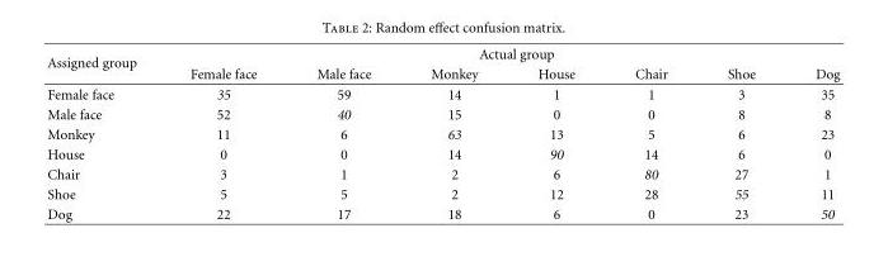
<table><thead><tr><td rowspan="2">Assigned group</td><td colspan="7">Actual group</td></tr><tr><td>Female face</td><td>Male face</td><td>Monkey</td><td>House</td><td>Chair</td><td>Shoe</td><td>Dog</td></tr></thead><tbody><tr><td>Female face</td><td>35</td><td>59</td><td>14</td><td>1</td><td>1</td><td>3</td><td>35</td></tr><tr><td>Male face</td><td>52</td><td>40</td><td>15</td><td>0</td><td>0</td><td>8</td><td>8</td></tr><tr><td>Monkey</td><td>11</td><td>6</td><td>63</td><td>13</td><td>5</td><td>6</td><td>23</td></tr><tr><td>House</td><td>0</td><td>0</td><td>14</td><td>90</td><td>14</td><td>6</td><td>0</td></tr><tr><td>Chair</td><td>3</td><td>1</td><td>2</td><td>6</td><td>80</td><td>27</td><td>1</td></tr><tr><td>Shoe</td><td>5</td><td>5</td><td>2</td><td>12</td><td>28</td><td>55</td><td>11</td></tr><tr><td>Dog</td><td>22</td><td>17</td><td>18</td><td>6</td><td>0</td><td>23</td><td>50</td></tr></tbody></table>